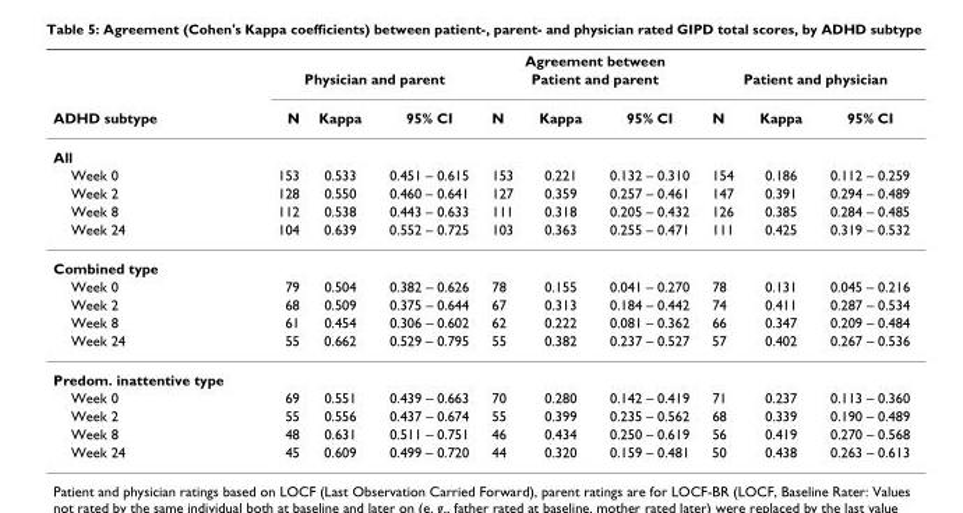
<table><thead><tr><td rowspan="3">ADHD subtype</td><td colspan="9">Agreement between</td></tr><tr><td colspan="3">Physician and parent</td><td colspan="3">Patient and parent</td><td colspan="3">Patient and physician</td></tr><tr><td>N</td><td>Kappa</td><td>95% CI</td><td>N</td><td>Kappa</td><td>95% CI</td><td>N</td><td>Kappa</td><td>95% CI</td></tr></thead><tbody><tr><td colspan="10">All</td></tr><tr><td>Week 0</td><td>153</td><td>0.533</td><td>0.451 – 0.615</td><td>153</td><td>0.221</td><td>0.132 – 0.310</td><td>154</td><td>0.186</td><td>0.112 – 0.259</td></tr><tr><td>Week 2</td><td>128</td><td>0.550</td><td>0.460 – 0.641</td><td>127</td><td>0.359</td><td>0.257 – 0.461</td><td>147</td><td>0.391</td><td>0.294 – 0.489</td></tr><tr><td>Week 8</td><td>112</td><td>0.538</td><td>0.443 – 0.633</td><td>111</td><td>0.318</td><td>0.205 – 0.432</td><td>126</td><td>0.385</td><td>0.284 – 0.485</td></tr><tr><td>Week 24</td><td>104</td><td>0.639</td><td>0.552 – 0.725</td><td>103</td><td>0.363</td><td>0.255 – 0.471</td><td>111</td><td>0.425</td><td>0.319 – 0.532</td></tr><tr><td colspan="10">Combined type</td></tr><tr><td>Week 0</td><td>79</td><td>0.504</td><td>0.382 – 0.626</td><td>78</td><td>0.155</td><td>0.041 – 0.270</td><td>78</td><td>0.131</td><td>0.045 – 0.216</td></tr><tr><td>Week 2</td><td>68</td><td>0.509</td><td>0.375 – 0.644</td><td>67</td><td>0.313</td><td>0.184 – 0.442</td><td>74</td><td>0.411</td><td>0.287 – 0.534</td></tr><tr><td>Week 8</td><td>61</td><td>0.454</td><td>0.306 – 0.602</td><td>62</td><td>0.222</td><td>0.081 – 0.362</td><td>66</td><td>0.347</td><td>0.209 – 0.484</td></tr><tr><td>Week 24</td><td>55</td><td>0.662</td><td>0.529 – 0.795</td><td>55</td><td>0.382</td><td>0.237 – 0.527</td><td>57</td><td>0.402</td><td>0.267 – 0.536</td></tr><tr><td colspan="10">Predom. inattentive type</td></tr><tr><td>Week 0</td><td>69</td><td>0.551</td><td>0.439 – 0.663</td><td>70</td><td>0.280</td><td>0.142 – 0.419</td><td>71</td><td>0.237</td><td>0.113 – 0.360</td></tr><tr><td>Week 2</td><td>55</td><td>0.556</td><td>0.437 – 0.674</td><td>55</td><td>0.399</td><td>0.235 – 0.562</td><td>68</td><td>0.339</td><td>0.190 – 0.489</td></tr><tr><td>Week 8</td><td>48</td><td>0.631</td><td>0.511 – 0.751</td><td>46</td><td>0.434</td><td>0.250 – 0.619</td><td>56</td><td>0.419</td><td>0.270 – 0.568</td></tr><tr><td>Week 24</td><td>45</td><td>0.609</td><td>0.499 – 0.720</td><td>44</td><td>0.320</td><td>0.159 – 0.481</td><td>50</td><td>0.438</td><td>0.263 – 0.613</td></tr></tbody></table>